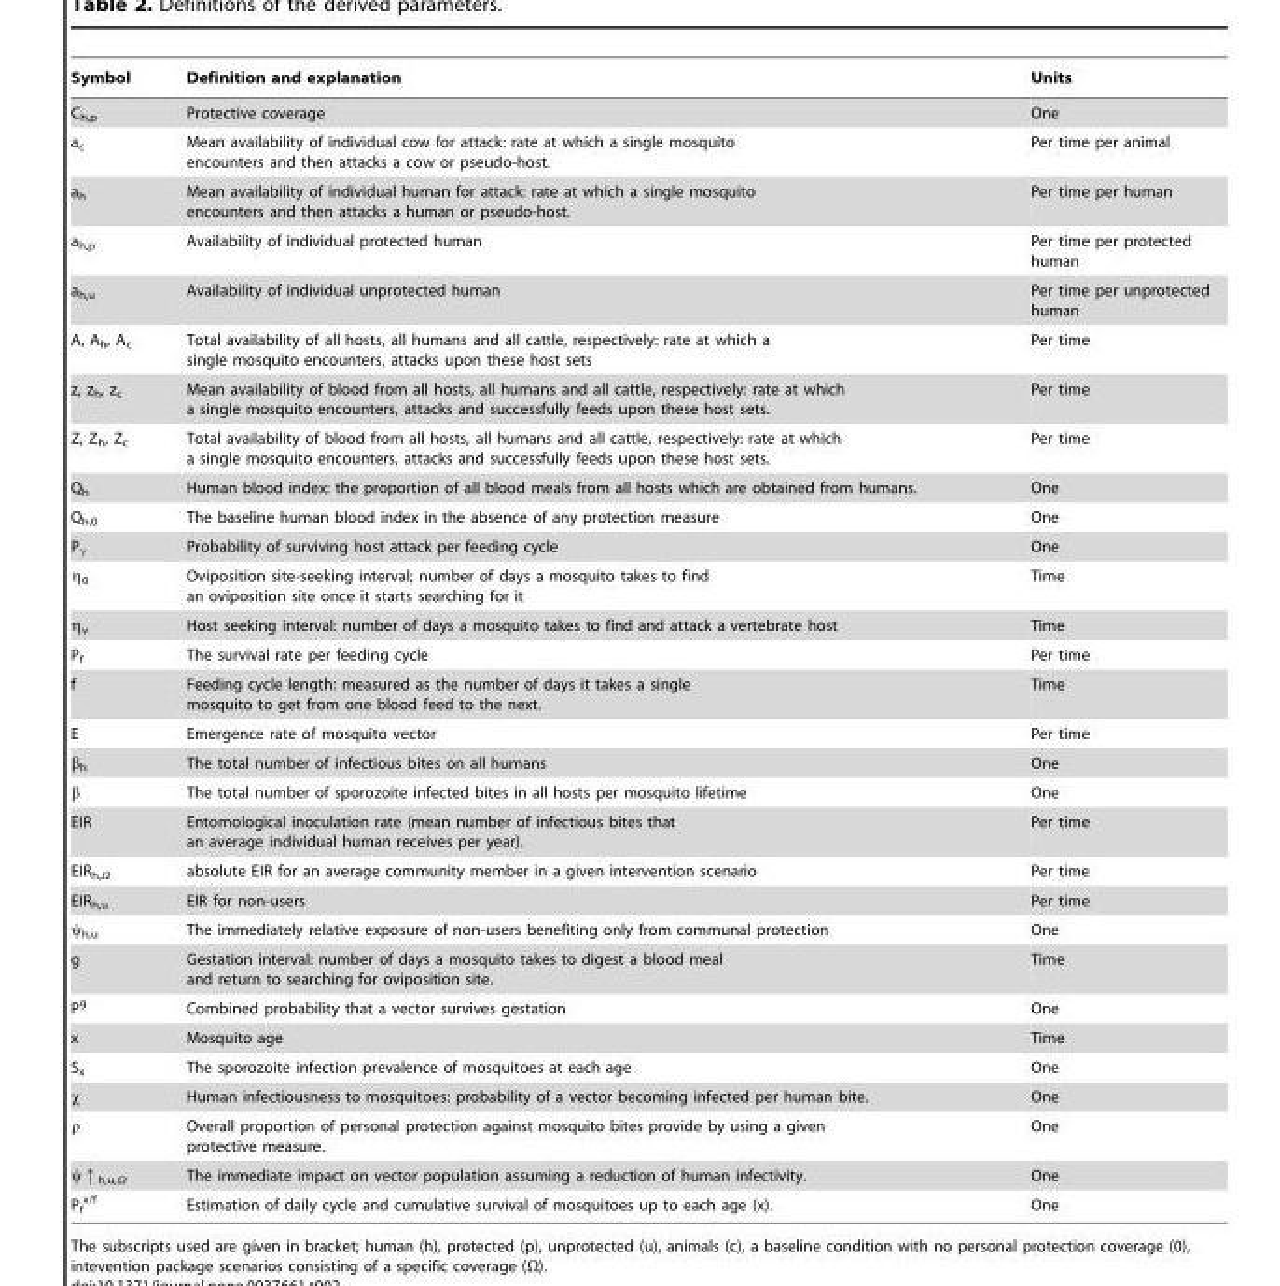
<table><thead><tr><td>Symbol</td><td>Definition and explanation</td><td>Units</td></tr></thead><tbody><tr><td>C<sub>h,p</sub></td><td>Protective coverage</td><td>One</td></tr><tr><td>a<sub>c</sub></td><td>Mean availability of individual cow for attack: rate at which a single mosquito encounters and then attacks a cow or pseudo-host.</td><td>Per time per animal</td></tr><tr><td>a<sub>h</sub></td><td>Mean availability of individual human for attack: rate at which a single mosquito encounters and then attacks a human or pseudo-host.</td><td>Per time per human</td></tr><tr><td>a<sub>h,p</sub></td><td>Availability of individual protected human</td><td>Per time per protected human</td></tr><tr><td>a<sub>h,u</sub></td><td>Availability of individual unprotected human</td><td>Per time per unprotected human</td></tr><tr><td>A, A<sub>h</sub>, A<sub>c</sub></td><td>Total availability of all hosts, all humans and all cattle, respectively: rate at which a single mosquito encounters, attacks upon these host sets</td><td>Per time</td></tr><tr><td>z, z<sub>h</sub>, z<sub>c</sub></td><td>Mean availability of blood from all hosts, all humans and all cattle, respectively: rate at which a single mosquito encounters, attacks and successfully feeds upon these host sets.</td><td>Per time</td></tr><tr><td>Z, Z<sub>h</sub>, Z<sub>c</sub></td><td>Total availability of blood from all hosts, all humans and all cattle, respectively: rate at which a single mosquito encounters, attacks and successfully feeds upon these host sets.</td><td>Per time</td></tr><tr><td>Q<sub>h</sub></td><td>Human blood index: the proportion of all blood meals from all hosts which are obtained from humans.</td><td>One</td></tr><tr><td>Q<sub>h,0</sub></td><td>The baseline human blood index in the absence of any protection measure</td><td>One</td></tr><tr><td>P<sub>γ</sub></td><td>Probability of surviving host attack per feeding cycle</td><td>One</td></tr><tr><td>η<sub>0</sub></td><td>Oviposition site-seeking interval; number of days a mosquito takes to find an oviposition site once it starts searching for it</td><td>Time</td></tr><tr><td>η<sub>v</sub></td><td>Host seeking interval: number of days a mosquito takes to find and attack a vertebrate host</td><td>Time</td></tr><tr><td>P<sub>f</sub></td><td>The survival rate per feeding cycle</td><td>Per time</td></tr><tr><td>f</td><td>Feeding cycle length: measured as the number of days it takes a single mosquito to get from one blood feed to the next.</td><td>Time</td></tr><tr><td>E</td><td>Emergence rate of mosquito vector</td><td>Per time</td></tr><tr><td>β<sub>h</sub></td><td>The total number of infectious bites on all humans</td><td>One</td></tr><tr><td>β</td><td>The total number of sporozoite infected bites in all hosts per mosquito lifetime</td><td>One</td></tr><tr><td>EIR</td><td>Entomological inoculation rate (mean number of infectious bites that an average individual human receives per year).</td><td>Per time</td></tr><tr><td>EIR<sub>h,Ω</sub></td><td>absolute EIR for an average community member in a given intervention scenario</td><td>Per time</td></tr><tr><td>EIR<sub>h,u</sub></td><td>EIR for non-users</td><td>Per time</td></tr><tr><td>ψ<sub>h,u</sub></td><td>The immediately relative exposure of non-users benefiting only from communal protection</td><td>One</td></tr><tr><td>g</td><td>Gestation interval: number of days a mosquito takes to digest a blood meal and return to searching for oviposition site.</td><td>Time</td></tr><tr><td>P<sup>g</sup></td><td>Combined probability that a vector survives gestation</td><td>One</td></tr><tr><td>x</td><td>Mosquito age</td><td>Time</td></tr><tr><td>S<sub>x</sub></td><td>The sporozoite infection prevalence of mosquitoes at each age</td><td>One</td></tr><tr><td>χ</td><td>Human infectiousness to mosquitoes: probability of a vector becoming infected per human bite.</td><td>One</td></tr><tr><td>ρ</td><td>Overall proportion of personal protection against mosquito bites provide by using a given protective measure.</td><td>One</td></tr><tr><td>ψ↑<sub>h,u,Ω</sub></td><td>The immediate impact on vector population assuming a reduction of human infectivity.</td><td>One</td></tr><tr><td>P<sub>f</sub> <sup>x/f</sup></td><td>Estimation of daily cycle and cumulative survival of mosquitoes up to each age (x).</td><td>One</td></tr></tbody></table>